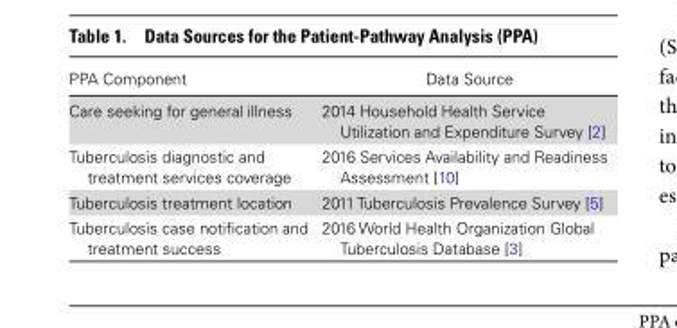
<table><thead><tr><td>PPA Component</td><td>Data Source</td></tr></thead><tbody><tr><td>Care seeking for general illness</td><td>2014 Household Health Service Utilization and Expenditure Survey [2]</td></tr><tr><td>Tuberculosis diagnostic and treatment services coverage</td><td>2016 Services Availability and Readiness Assessment [10]</td></tr><tr><td>Tuberculosis treatment location</td><td>2011 Tuberculosis Prevalence Survey [5]</td></tr><tr><td>Tuberculosis case notification and treatment success</td><td>2016 World Health Organization Global Tuberculosis Database [3]</td></tr></tbody></table>